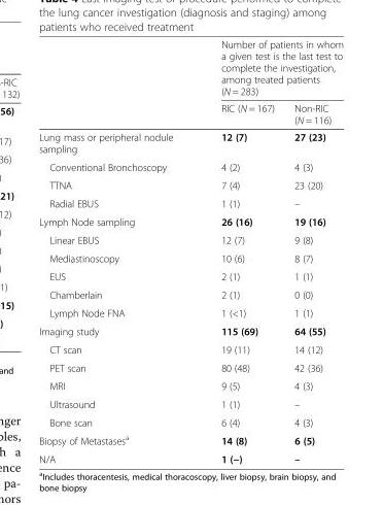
<table><thead><tr><td rowspan="2"></td><td colspan="2">Number of patients in whom a given test is the last test to complete the investigation, among treated patients (N = 283)</td></tr><tr><td>RIC (N = 167)</td><td>Non-RIC (N = 116)</td></tr></thead><tbody><tr><td>Lung mass or peripheral nodule sampling</td><td>12 (7)</td><td>27 (23)</td></tr><tr><td>Conventional Bronchoscopy</td><td>4 (2)</td><td>4 (3)</td></tr><tr><td>TTNA</td><td>7 (4)</td><td>23 (20)</td></tr><tr><td>Radial EBUS</td><td>1 (1)</td><td>–</td></tr><tr><td>Lymph Node sampling</td><td>26 (16)</td><td>19 (16)</td></tr><tr><td>Linear EBUS</td><td>12 (7)</td><td>9 (8)</td></tr><tr><td>Mediastinoscopy</td><td>10 (6)</td><td>8 (7)</td></tr><tr><td>EUS</td><td>2 (1)</td><td>1 (1)</td></tr><tr><td>Chamberlain</td><td>2 (1)</td><td>0 (0)</td></tr><tr><td>Lymph Node FNA</td><td>1 (&lt;1)</td><td>1 (1)</td></tr><tr><td>Imaging study</td><td>115 (69)</td><td>64 (55)</td></tr><tr><td>CT scan</td><td>19 (11)</td><td>14 (12)</td></tr><tr><td>PET scan</td><td>80 (48)</td><td>42 (36)</td></tr><tr><td>MRI</td><td>9 (5)</td><td>4 (3)</td></tr><tr><td>Ultrasound</td><td>1 (1)</td><td>–</td></tr><tr><td>Bone scan</td><td>6 (4)</td><td>4 (3)</td></tr><tr><td>Biopsy of Metastases<sup>a</sup></td><td>14 (8)</td><td>6 (5)</td></tr><tr><td>N/A</td><td>1 (−)</td><td>–</td></tr></tbody></table>